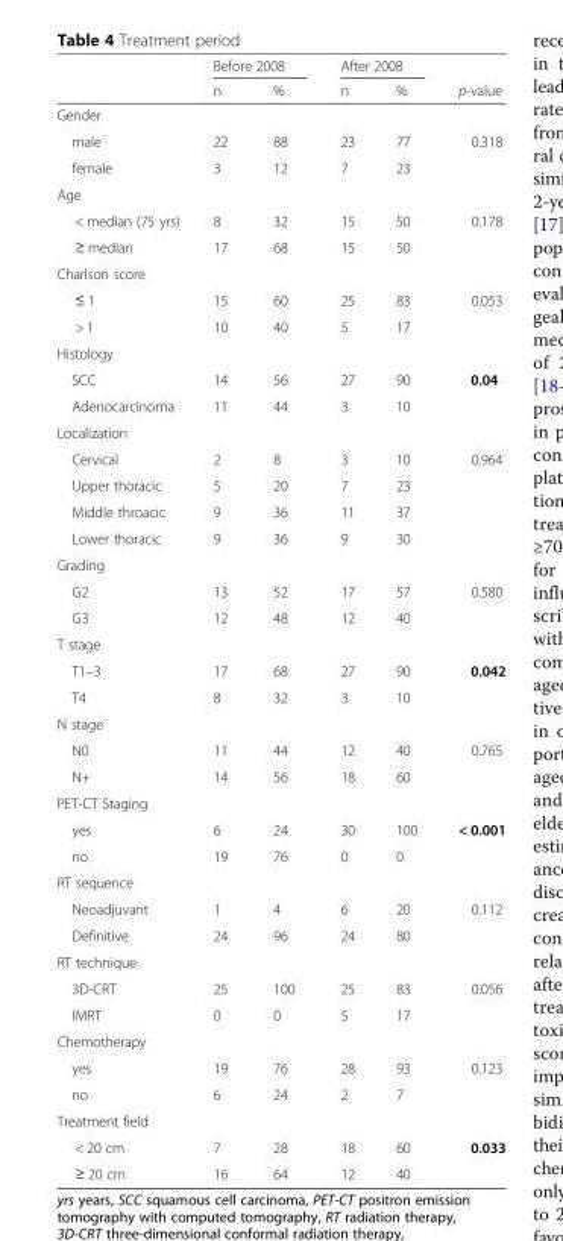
<table><thead><tr><td rowspan="2"></td><td colspan="2">Before 2008</td><td colspan="2">After 2008</td><td rowspan="2">p-value</td></tr><tr><td>n</td><td>%</td><td>n</td><td>%</td></tr></thead><tbody><tr><td colspan="6">Gender</td></tr><tr><td>male</td><td>22</td><td>88</td><td>23</td><td>77</td><td>0.318</td></tr><tr><td>female</td><td>3</td><td>12</td><td>7</td><td>23</td><td></td></tr><tr><td colspan="6">Age</td></tr><tr><td>&lt; median (75 yrs)</td><td>8</td><td>32</td><td>15</td><td>50</td><td>0.178</td></tr><tr><td>≥ median</td><td>17</td><td>68</td><td>15</td><td>50</td><td></td></tr><tr><td colspan="6">Charlson score</td></tr><tr><td>≤ 1</td><td>15</td><td>60</td><td>25</td><td>83</td><td>0.053</td></tr><tr><td>&gt; 1</td><td>10</td><td>40</td><td>5</td><td>17</td><td></td></tr><tr><td colspan="6">Histology</td></tr><tr><td>SCC</td><td>14</td><td>56</td><td>27</td><td>90</td><td>0.04</td></tr><tr><td>Adenocarcinoma</td><td>11</td><td>44</td><td>3</td><td>10</td><td></td></tr><tr><td colspan="6">Localization</td></tr><tr><td>Cervical</td><td>2</td><td>8</td><td>3</td><td>10</td><td>0.964</td></tr><tr><td>Upper thoracic</td><td>5</td><td>20</td><td>7</td><td>23</td><td></td></tr><tr><td>Middle throacic</td><td>9</td><td>36</td><td>11</td><td>37</td><td></td></tr><tr><td>Lower thoracic</td><td>9</td><td>36</td><td>9</td><td>30</td><td></td></tr><tr><td colspan="6">Grading</td></tr><tr><td>G2</td><td>13</td><td>52</td><td>17</td><td>57</td><td>0.580</td></tr><tr><td>G3</td><td>12</td><td>48</td><td>12</td><td>40</td><td></td></tr><tr><td colspan="6">T stage</td></tr><tr><td>T1–3</td><td>17</td><td>68</td><td>27</td><td>90</td><td>0.042</td></tr><tr><td>T4</td><td>8</td><td>32</td><td>3</td><td>10</td><td></td></tr><tr><td colspan="6">N stage</td></tr><tr><td>N0</td><td>11</td><td>44</td><td>12</td><td>40</td><td>0.765</td></tr><tr><td>N+</td><td>14</td><td>56</td><td>18</td><td>60</td><td></td></tr><tr><td colspan="6">PET-CT Staging</td></tr><tr><td>yes</td><td>6</td><td>24</td><td>30</td><td>100</td><td>&lt; 0.001</td></tr><tr><td>no</td><td>19</td><td>76</td><td>0</td><td>0</td><td></td></tr><tr><td colspan="6">RT sequence</td></tr><tr><td>Neoadjuvant</td><td>1</td><td>4</td><td>6</td><td>20</td><td>0.112</td></tr><tr><td>Definitive</td><td>24</td><td>96</td><td>24</td><td>80</td><td></td></tr><tr><td colspan="6">RT technique</td></tr><tr><td>3D-CRT</td><td>25</td><td>100</td><td>25</td><td>83</td><td>0.056</td></tr><tr><td>IMRT</td><td>0</td><td>0</td><td>5</td><td>17</td><td></td></tr><tr><td colspan="6">Chemotherapy</td></tr><tr><td>yes</td><td>19</td><td>76</td><td>28</td><td>93</td><td>0.123</td></tr><tr><td>no</td><td>6</td><td>24</td><td>2</td><td>7</td><td></td></tr><tr><td colspan="6">Treatment field</td></tr><tr><td>&lt; 20 cm</td><td>7</td><td>28</td><td>18</td><td>60</td><td>0.033</td></tr><tr><td>≥ 20 cm</td><td>16</td><td>64</td><td>12</td><td>40</td><td></td></tr></tbody></table>